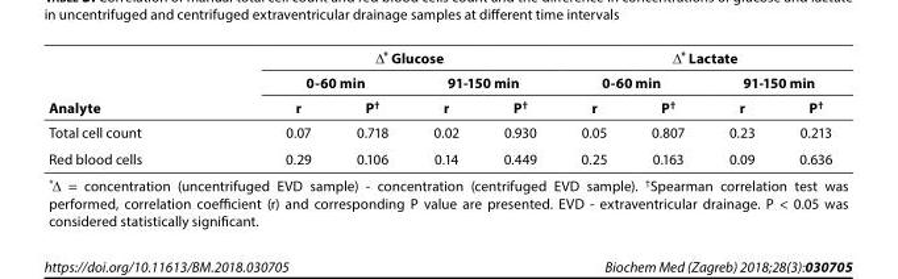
<table><thead><tr><td rowspan="3">Analyte</td><td colspan="4">Δ* Glucose</td><td colspan="4">Δ* Lactate</td></tr><tr><td colspan="2">0-60 min</td><td colspan="2">91-150 min</td><td colspan="2">0-60 min</td><td colspan="2">91-150 min</td></tr><tr><td>r</td><td>P<sup>†</sup></td><td>r</td><td>P<sup>†</sup></td><td>r</td><td>P<sup>†</sup></td><td>r</td><td>P<sup>†</sup></td></tr></thead><tbody><tr><td>Total cell count</td><td>0.07</td><td>0.718</td><td>0.02</td><td>0.930</td><td>0.05</td><td>0.807</td><td>0.23</td><td>0.213</td></tr><tr><td>Red blood cells</td><td>0.29</td><td>0.106</td><td>0.14</td><td>0.449</td><td>0.25</td><td>0.163</td><td>0.09</td><td>0.636</td></tr><tr><td colspan="9">*Δ = concentration (uncentrifuged EVD sample) - concentration (centrifuged EVD sample). <sup>†</sup>Spearman correlation test was performed, correlation coefficient (r) and corresponding P value are presented. EVD - extraventricular drainage. P &lt; 0.05 was considered statistically significant.</td></tr></tbody></table>